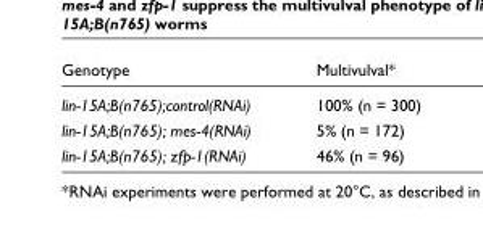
<table><thead><tr><td>Genotype</td><td>Multivulval*</td></tr></thead><tbody><tr><td>lin-15A;B(n765);control(RNAi)</td><td>100% (n = 300)</td></tr><tr><td>lin-15A;B(n765); mes-4(RNAi)</td><td>5% (n = 172)</td></tr><tr><td>lin-15A;B(n765); zfp-1(RNAi)</td><td>46% (n = 96)</td></tr></tbody></table>